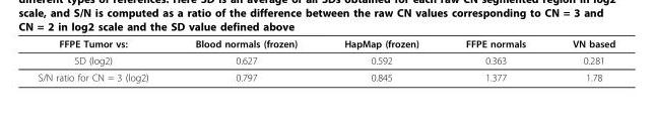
<table><thead><tr><td>FFPE Tumor vs:</td><td>Blood normals (frozen)</td><td>HapMap (frozen)</td><td>FFPE normals</td><td>VN based</td></tr></thead><tbody><tr><td>SD (log2)</td><td>0.627</td><td>0.592</td><td>0.363</td><td>0.281</td></tr><tr><td>S/N ratio for CN = 3 (log2)</td><td>0.797</td><td>0.845</td><td>1.377</td><td>1.78</td></tr></tbody></table>